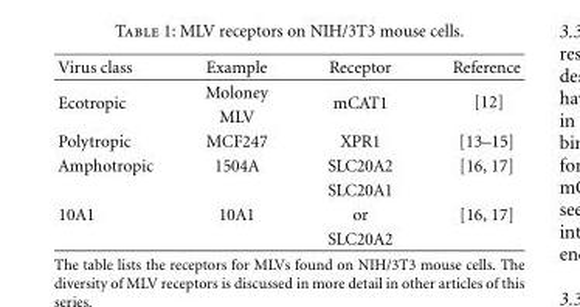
<table><thead><tr><td>Virus class</td><td>Example</td><td>Receptor</td><td>Reference</td></tr></thead><tbody><tr><td rowspan="2">Ecotropic</td><td>Moloney</td><td rowspan="2">mCAT1</td><td rowspan="2">[12]</td></tr><tr><td>MLV</td></tr><tr><td>Polytropic</td><td>MCF247</td><td>XPR1</td><td>[13–15]</td></tr><tr><td rowspan="2">Amphotropic</td><td>1504A</td><td>SLC20A2</td><td>[16, 17]</td></tr><tr><td></td><td>SLC20A1</td><td></td></tr><tr><td rowspan="2">10A1</td><td>10A1</td><td>or</td><td>[16, 17]</td></tr><tr><td></td><td>SLC20A2</td><td></td></tr></tbody></table>